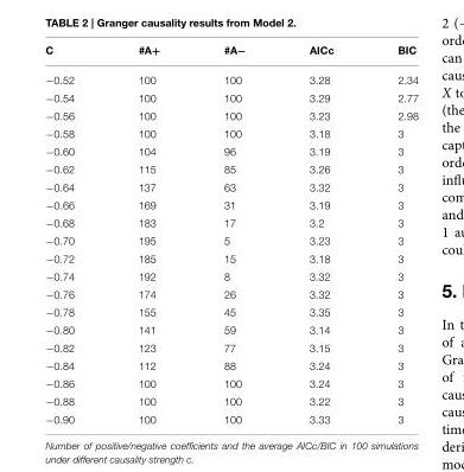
<table><thead><tr><td>C</td><td>#A+</td><td>#A−</td><td>AICc</td><td>BIC</td></tr></thead><tbody><tr><td>−0.52</td><td>100</td><td>100</td><td>3.28</td><td>2.34</td></tr><tr><td>−0.54</td><td>100</td><td>100</td><td>3.29</td><td>2.77</td></tr><tr><td>−0.56</td><td>100</td><td>100</td><td>3.23</td><td>2.98</td></tr><tr><td>−0.58</td><td>100</td><td>100</td><td>3.18</td><td>3</td></tr><tr><td>−0.60</td><td>104</td><td>96</td><td>3.19</td><td>3</td></tr><tr><td>−0.62</td><td>115</td><td>85</td><td>3.26</td><td>3</td></tr><tr><td>−0.64</td><td>137</td><td>63</td><td>3.32</td><td>3</td></tr><tr><td>−0.66</td><td>169</td><td>31</td><td>3.19</td><td>3</td></tr><tr><td>−0.68</td><td>183</td><td>17</td><td>3.2</td><td>3</td></tr><tr><td>−0.70</td><td>195</td><td>5</td><td>3.23</td><td>3</td></tr><tr><td>−0.72</td><td>185</td><td>15</td><td>3.18</td><td>3</td></tr><tr><td>−0.74</td><td>192</td><td>8</td><td>3.32</td><td>3</td></tr><tr><td>−0.76</td><td>174</td><td>26</td><td>3.32</td><td>3</td></tr><tr><td>−0.78</td><td>155</td><td>45</td><td>3.35</td><td>3</td></tr><tr><td>−0.80</td><td>141</td><td>59</td><td>3.14</td><td>3</td></tr><tr><td>−0.82</td><td>123</td><td>77</td><td>3.15</td><td>3</td></tr><tr><td>−0.84</td><td>112</td><td>88</td><td>3.24</td><td>3</td></tr><tr><td>−0.86</td><td>100</td><td>100</td><td>3.24</td><td>3</td></tr><tr><td>−0.88</td><td>100</td><td>100</td><td>3.22</td><td>3</td></tr><tr><td>−0.90</td><td>100</td><td>100</td><td>3.33</td><td>3</td></tr></tbody></table>